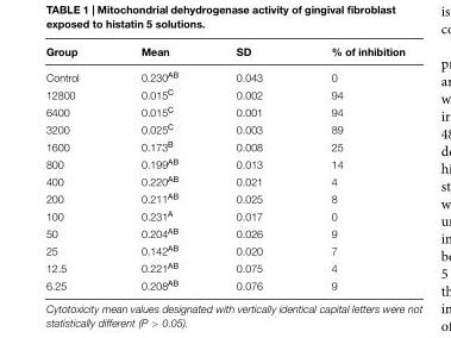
<table><thead><tr><td>Group</td><td>Mean</td><td>SD</td><td>% of inhibition</td></tr></thead><tbody><tr><td>Control</td><td>0.230<sup>AB</sup></td><td>0.043</td><td>0</td></tr><tr><td>12800</td><td>0.015<sup>C</sup></td><td>0.002</td><td>94</td></tr><tr><td>6400</td><td>0.015<sup>C</sup></td><td>0.001</td><td>94</td></tr><tr><td>3200</td><td>0.025<sup>C</sup></td><td>0.003</td><td>89</td></tr><tr><td>1600</td><td>0.173<sup>B</sup></td><td>0.008</td><td>25</td></tr><tr><td>800</td><td>0.199<sup>AB</sup></td><td>0.013</td><td>14</td></tr><tr><td>400</td><td>0.220<sup>AB</sup></td><td>0.021</td><td>4</td></tr><tr><td>200</td><td>0.211<sup>AB</sup></td><td>0.025</td><td>8</td></tr><tr><td>100</td><td>0.231<sup>A</sup></td><td>0.017</td><td>0</td></tr><tr><td>50</td><td>0.204<sup>AB</sup></td><td>0.026</td><td>9</td></tr><tr><td>25</td><td>0.142<sup>AB</sup></td><td>0.020</td><td>7</td></tr><tr><td>12.5</td><td>0.221<sup>AB</sup></td><td>0.075</td><td>4</td></tr><tr><td>6.25</td><td>0.208<sup>AB</sup></td><td>0.076</td><td>9</td></tr></tbody></table>